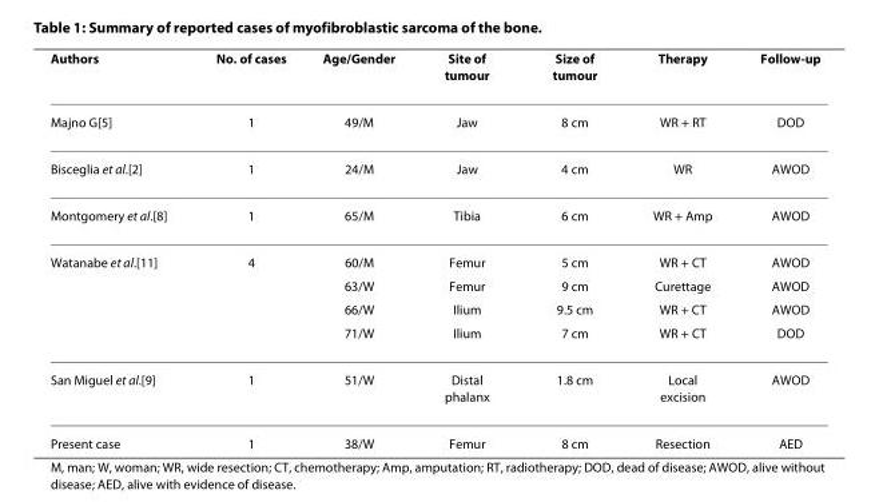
<table><thead><tr><td>Authors</td><td>No. of cases</td><td>Age/Gender</td><td>Site of tumour</td><td>Size of tumour</td><td>Therapy</td><td>Follow-up</td></tr></thead><tbody><tr><td>Majno G[5]</td><td>1</td><td>49/M</td><td>Jaw</td><td>8 cm</td><td>WR + RT</td><td>DOD</td></tr><tr><td>Bisceglia et al.[2]</td><td>1</td><td>24/M</td><td>Jaw</td><td>4 cm</td><td>WR</td><td>AWOD</td></tr><tr><td>Montgomery et al.[8]</td><td>1</td><td>65/M</td><td>Tibia</td><td>6 cm</td><td>WR + Amp</td><td>AWOD</td></tr><tr><td rowspan="4">Watanabe et al.[11]</td><td>4</td><td>60/M</td><td>Femur</td><td>5 cm</td><td>WR + CT</td><td>AWOD</td></tr><tr><td></td><td>63/W</td><td>Femur</td><td>9 cm</td><td>Curettage</td><td>AWOD</td></tr><tr><td></td><td>66/W</td><td>Ilium</td><td>9.5 cm</td><td>WR + CT</td><td>AWOD</td></tr><tr><td></td><td>71/W</td><td>Ilium</td><td>7 cm</td><td>WR + CT</td><td>DOD</td></tr><tr><td>San Miguel et al.[9]</td><td>1</td><td>51/W</td><td>Distal phalanx</td><td>1.8 cm</td><td>Local excision</td><td>AWOD</td></tr><tr><td>Present case</td><td>1</td><td>38/W</td><td>Femur</td><td>8 cm</td><td>Resection</td><td>AED</td></tr></tbody></table>